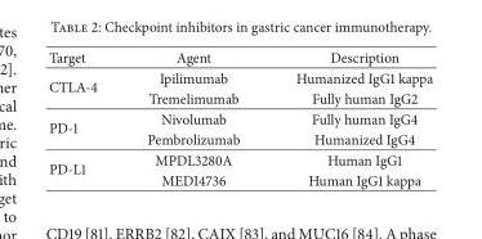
<table><thead><tr><td>Target</td><td>Agent</td><td>Description</td></tr></thead><tbody><tr><td rowspan="2">CTLA-4</td><td>Ipilimumab</td><td>Humanized IgG1 kappa</td></tr><tr><td>Tremelimumab</td><td>Fully human IgG2</td></tr><tr><td rowspan="2">PD-1</td><td>Nivolumab</td><td>Fully human IgG4</td></tr><tr><td>Pembrolizumab</td><td>Humanized IgG4</td></tr><tr><td rowspan="2">PD-L1</td><td>MPDL3280A</td><td>Human IgG1</td></tr><tr><td>MEDI4736</td><td>Human IgG1 kappa</td></tr></tbody></table>